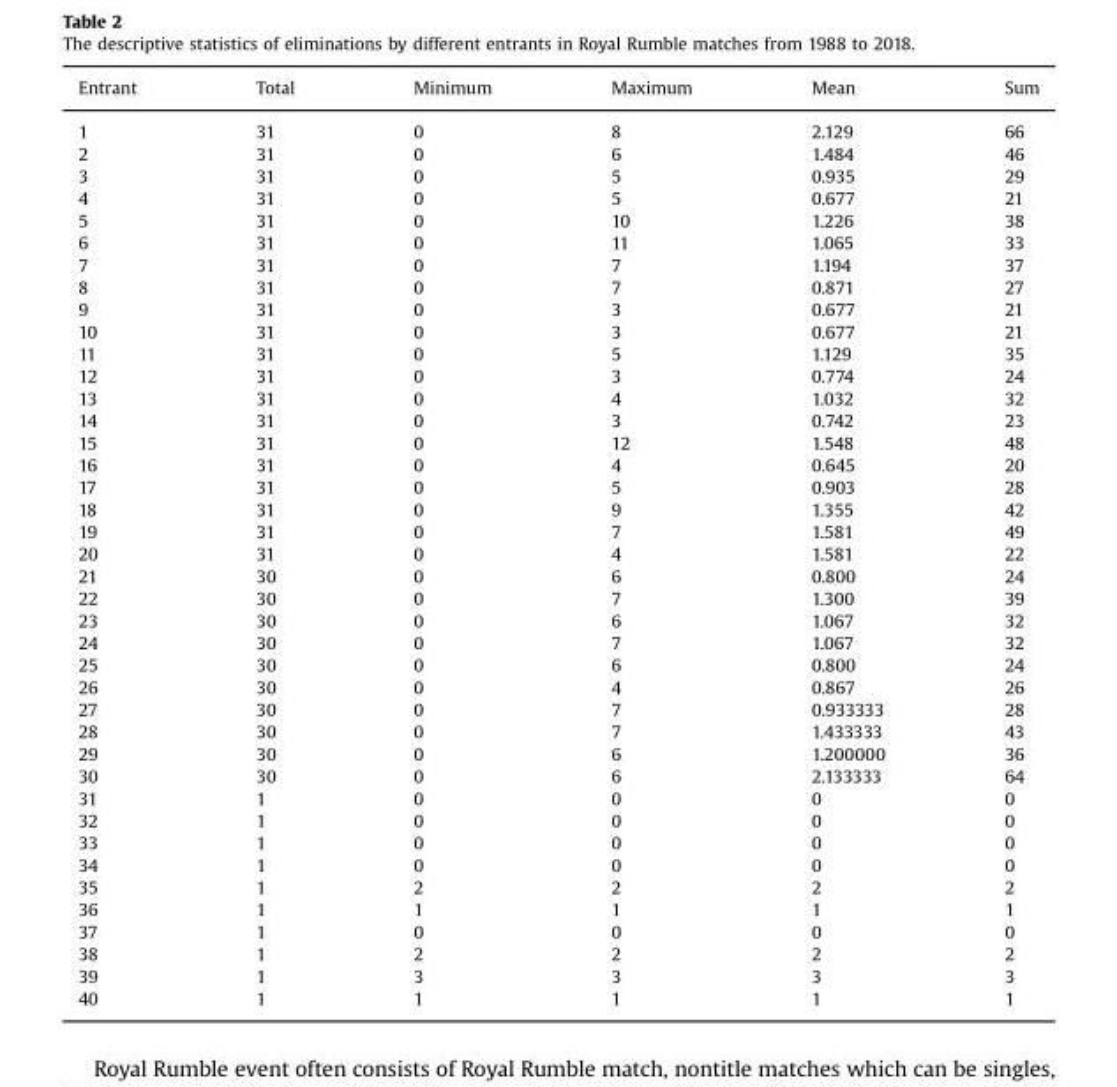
<table><thead><tr><td>Entrant</td><td>Total</td><td>Minimum</td><td>Maximum</td><td>Mean</td><td>Sum</td></tr></thead><tbody><tr><td>1</td><td>31</td><td>0</td><td>8</td><td>2.129</td><td>66</td></tr><tr><td>2</td><td>31</td><td>0</td><td>6</td><td>1.484</td><td>46</td></tr><tr><td>3</td><td>31</td><td>0</td><td>5</td><td>0.935</td><td>29</td></tr><tr><td>4</td><td>31</td><td>0</td><td>5</td><td>0.677</td><td>21</td></tr><tr><td>5</td><td>31</td><td>0</td><td>10</td><td>1.226</td><td>38</td></tr><tr><td>6</td><td>31</td><td>0</td><td>11</td><td>1.065</td><td>33</td></tr><tr><td>7</td><td>31</td><td>0</td><td>7</td><td>1.194</td><td>37</td></tr><tr><td>8</td><td>31</td><td>0</td><td>7</td><td>0.871</td><td>27</td></tr><tr><td>9</td><td>31</td><td>0</td><td>3</td><td>0.677</td><td>21</td></tr><tr><td>10</td><td>31</td><td>0</td><td>3</td><td>0.677</td><td>21</td></tr><tr><td>11</td><td>31</td><td>0</td><td>5</td><td>1.129</td><td>35</td></tr><tr><td>12</td><td>31</td><td>0</td><td>3</td><td>0.774</td><td>24</td></tr><tr><td>13</td><td>31</td><td>0</td><td>4</td><td>1.032</td><td>32</td></tr><tr><td>14</td><td>31</td><td>0</td><td>3</td><td>0.742</td><td>23</td></tr><tr><td>15</td><td>31</td><td>0</td><td>12</td><td>1.548</td><td>48</td></tr><tr><td>16</td><td>31</td><td>0</td><td>4</td><td>0.645</td><td>20</td></tr><tr><td>17</td><td>31</td><td>0</td><td>5</td><td>0.903</td><td>28</td></tr><tr><td>18</td><td>31</td><td>0</td><td>9</td><td>1.355</td><td>42</td></tr><tr><td>19</td><td>31</td><td>0</td><td>7</td><td>1.581</td><td>49</td></tr><tr><td>20</td><td>31</td><td>0</td><td>4</td><td>1.581</td><td>22</td></tr><tr><td>21</td><td>30</td><td>0</td><td>6</td><td>0.800</td><td>24</td></tr><tr><td>22</td><td>30</td><td>0</td><td>7</td><td>1.300</td><td>39</td></tr><tr><td>23</td><td>30</td><td>0</td><td>6</td><td>1.067</td><td>32</td></tr><tr><td>24</td><td>30</td><td>0</td><td>7</td><td>1.067</td><td>32</td></tr><tr><td>25</td><td>30</td><td>0</td><td>6</td><td>0.800</td><td>24</td></tr><tr><td>26</td><td>30</td><td>0</td><td>4</td><td>0.867</td><td>26</td></tr><tr><td>27</td><td>30</td><td>0</td><td>7</td><td>0.933333</td><td>28</td></tr><tr><td>28</td><td>30</td><td>0</td><td>7</td><td>1.433333</td><td>43</td></tr><tr><td>29</td><td>30</td><td>0</td><td>6</td><td>1.200000</td><td>36</td></tr><tr><td>30</td><td>30</td><td>0</td><td>6</td><td>2.133333</td><td>64</td></tr><tr><td>31</td><td>1</td><td>0</td><td>0</td><td>0</td><td>0</td></tr><tr><td>32</td><td>1</td><td>0</td><td>0</td><td>0</td><td>0</td></tr><tr><td>33</td><td>1</td><td>0</td><td>0</td><td>0</td><td>0</td></tr><tr><td>34</td><td>1</td><td>0</td><td>0</td><td>0</td><td>0</td></tr><tr><td>35</td><td>1</td><td>2</td><td>2</td><td>2</td><td>2</td></tr><tr><td>36</td><td>1</td><td>1</td><td>1</td><td>1</td><td>1</td></tr><tr><td>37</td><td>1</td><td>0</td><td>0</td><td>0</td><td>0</td></tr><tr><td>38</td><td>1</td><td>2</td><td>2</td><td>2</td><td>2</td></tr><tr><td>39</td><td>1</td><td>3</td><td>3</td><td>3</td><td>3</td></tr><tr><td>40</td><td>1</td><td>1</td><td>1</td><td>1</td><td>1</td></tr></tbody></table>